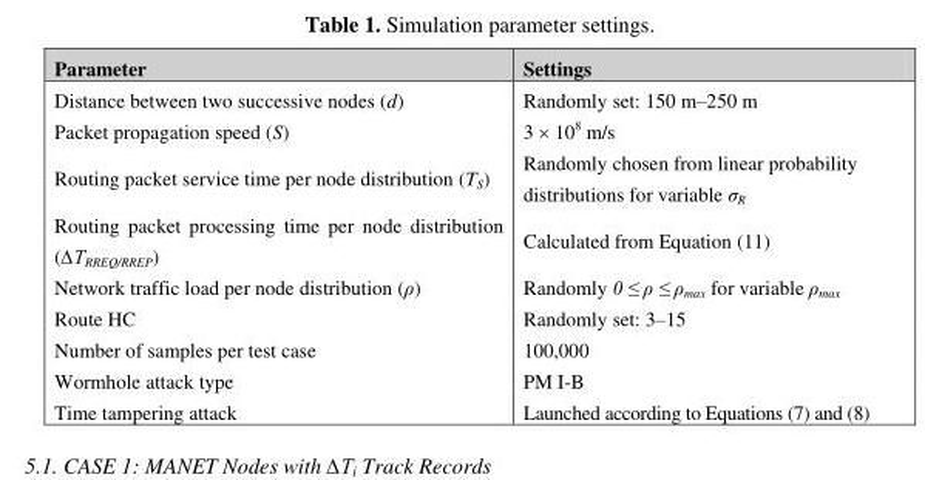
<table><thead><tr><td>Parameter</td><td>Settings</td></tr></thead><tbody><tr><td>Distance between two successive nodes (d)</td><td>Randomly set: 150 m–250 m</td></tr><tr><td>Packet propagation speed (S)</td><td>3 × 10<sup>8</sup> m/s</td></tr><tr><td>Routing packet service time per node distribution (T<sub>S</sub>)</td><td>Randomly chosen from linear probability distributions for variable σ<sub>R</sub></td></tr><tr><td>Routing packet processing time per node distribution (∆TRREQ/RREP)</td><td>Calculated from Equation (11)</td></tr><tr><td>Network traffic load per node distribution (ρ)</td><td>Randomly 0 ≤ ρ ≤ ρ<sub>max</sub> for variable ρ<sub>max</sub></td></tr><tr><td>Route HC</td><td>Randomly set: 3–15</td></tr><tr><td>Number of samples per test case</td><td>100,000</td></tr><tr><td>Wormhole attack type</td><td>PM I-B</td></tr><tr><td>Time tampering attack</td><td>Launched according to Equations (7) and (8)</td></tr></tbody></table>